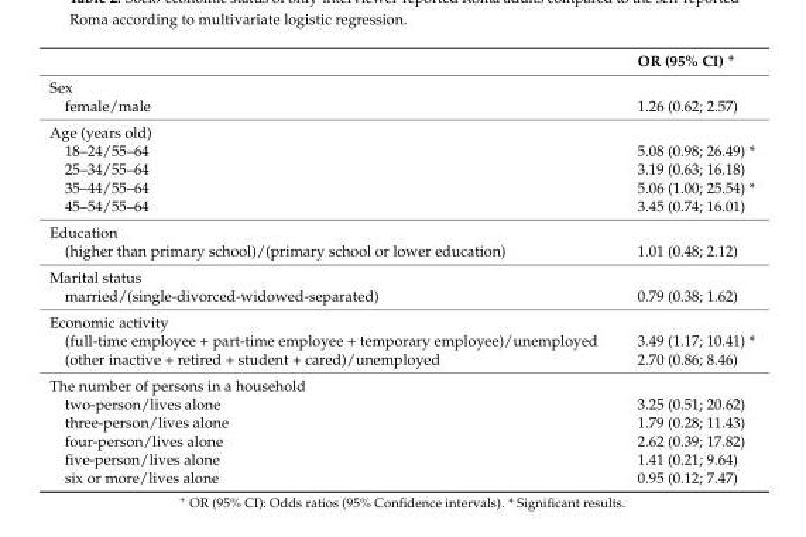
<table><thead><tr><td></td><td>OR (95% CI) <sup>+</sup></td></tr></thead><tbody><tr><td colspan="2">Sex</td></tr><tr><td>female/male</td><td>1.26 (0.62; 2.57)</td></tr><tr><td colspan="2">Age (years old)</td></tr><tr><td>18–24/55–64</td><td>5.08 (0.98; 26.49) *</td></tr><tr><td>25–34/55–64</td><td>3.19 (0.63; 16.18)</td></tr><tr><td>35–44/55–64</td><td>5.06 (1.00; 25.54) *</td></tr><tr><td>45–54/55–64</td><td>3.45 (0.74; 16.01)</td></tr><tr><td colspan="2">Education</td></tr><tr><td>(higher than primary school)/(primary school or lower education)</td><td>1.01 (0.48; 2.12)</td></tr><tr><td colspan="2">Marital status</td></tr><tr><td>married/(single-divorced-widowed-separated)</td><td>0.79 (0.38; 1.62)</td></tr><tr><td colspan="2">Economic activity</td></tr><tr><td>(full-time employee + part-time employee + temporary employee)/unemployed</td><td>3.49 (1.17; 10.41) *</td></tr><tr><td>(other inactive + retired + student + cared)/unemployed</td><td>2.70 (0.86; 8.46)</td></tr><tr><td colspan="2">The number of persons in a household</td></tr><tr><td>two-person/lives alone</td><td>3.25 (0.51; 20.62)</td></tr><tr><td>three-person/lives alone</td><td>1.79 (0.28; 11.43)</td></tr><tr><td>four-person/lives alone</td><td>2.62 (0.39; 17.82)</td></tr><tr><td>five-person/lives alone</td><td>1.41 (0.21; 9.64)</td></tr><tr><td>six or more/lives alone</td><td>0.95 (0.12; 7.47)</td></tr></tbody></table>